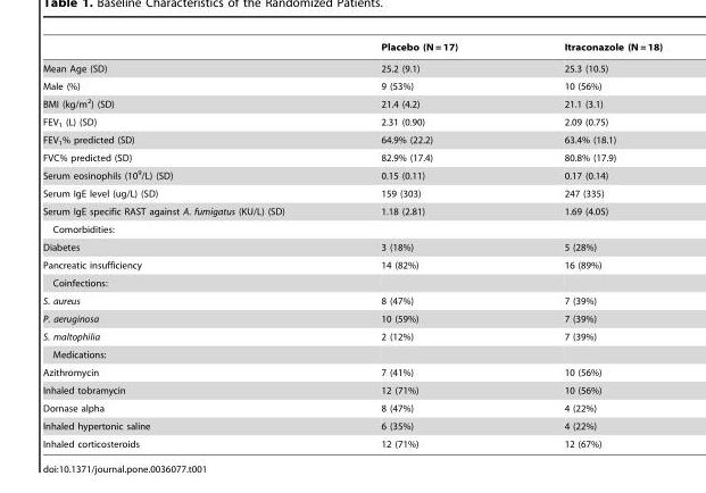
<table><thead><tr><td></td><td>Placebo (N = 17)</td><td>Itraconazole (N = 18)</td></tr></thead><tbody><tr><td>Mean Age (SD)</td><td>25.2 (9.1)</td><td>25.3 (10.5)</td></tr><tr><td>Male (%)</td><td>9 (53%)</td><td>10 (56%)</td></tr><tr><td>BMI (kg/m<sup>2</sup>) (SD)</td><td>21.4 (4.2)</td><td>21.1 (3.1)</td></tr><tr><td>FEV<sub>1</sub> (L) (SD)</td><td>2.31 (0.90)</td><td>2.09 (0.75)</td></tr><tr><td>FEV<sub>1</sub>% predicted (SD)</td><td>64.9% (22.2)</td><td>63.4% (18.1)</td></tr><tr><td>FVC% predicted (SD)</td><td>82.9% (17.4)</td><td>80.8% (17.9)</td></tr><tr><td>Serum eosinophils (10<sup>9</sup>/L) (SD)</td><td>0.15 (0.11)</td><td>0.17 (0.14)</td></tr><tr><td>Serum IgE level (ug/L) (SD)</td><td>159 (303)</td><td>247 (335)</td></tr><tr><td>Serum IgE specific RAST against A. fumigatus (KU/L) (SD)</td><td>1.18 (2.81)</td><td>1.69 (4.05)</td></tr><tr><td colspan="3">Comorbidities:</td></tr><tr><td>Diabetes</td><td>3 (18%)</td><td>5 (28%)</td></tr><tr><td>Pancreatic insufficiency</td><td>14 (82%)</td><td>16 (89%)</td></tr><tr><td colspan="3">Coinfections:</td></tr><tr><td>S. aureus</td><td>8 (47%)</td><td>7 (39%)</td></tr><tr><td>P. aeruginosa</td><td>10 (59%)</td><td>7 (39%)</td></tr><tr><td>S. maltophilia</td><td>2 (12%)</td><td>7 (39%)</td></tr><tr><td colspan="3">Medications:</td></tr><tr><td>Azithromycin</td><td>7 (41%)</td><td>10 (56%)</td></tr><tr><td>Inhaled tobramycin</td><td>12 (71%)</td><td>10 (56%)</td></tr><tr><td>Dornase alpha</td><td>8 (47%)</td><td>4 (22%)</td></tr><tr><td>Inhaled hypertonic saline</td><td>6 (35%)</td><td>4 (22%)</td></tr><tr><td>Inhaled corticosteroids</td><td>12 (71%)</td><td>12 (67%)</td></tr></tbody></table>